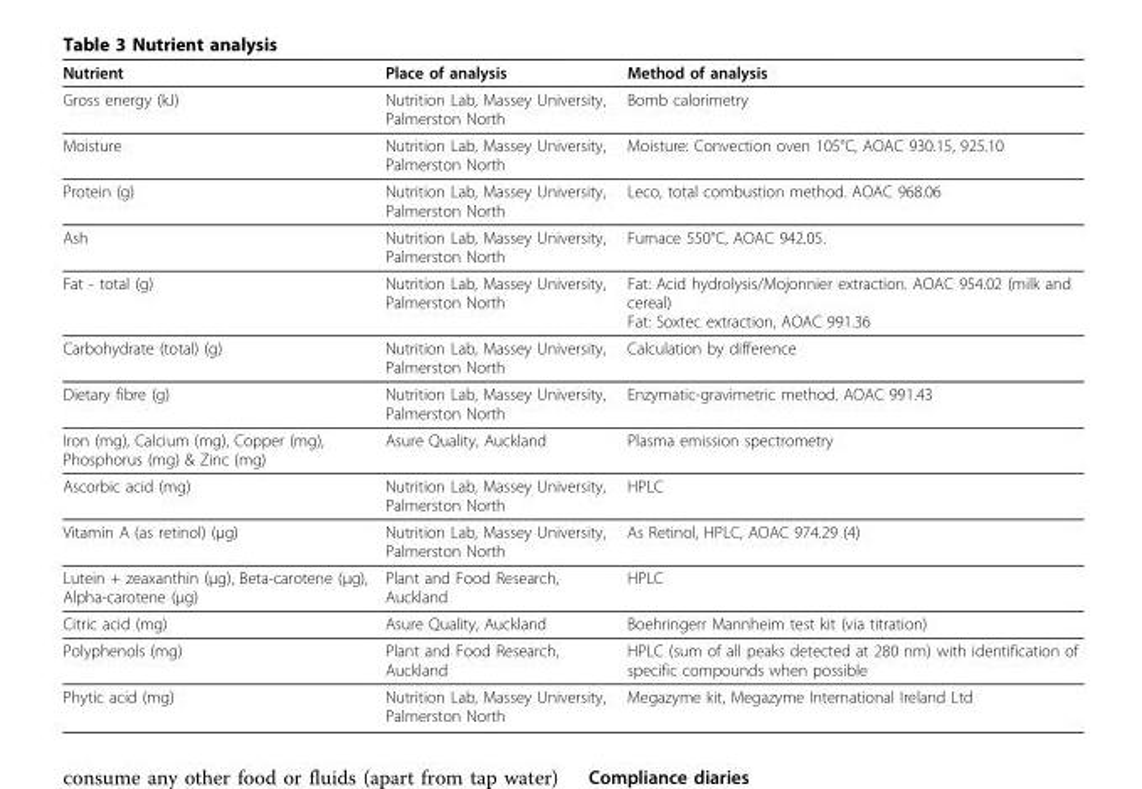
<table><thead><tr><td>Nutrient</td><td>Place of analysis</td><td>Method of analysis</td></tr></thead><tbody><tr><td>Gross energy (kJ)</td><td>Nutrition Lab, Massey University, Palmerston North</td><td>Bomb calorimetry</td></tr><tr><td>Moisture</td><td>Nutrition Lab, Massey University, Palmerston North</td><td>Moisture: Convection oven 105°C, AOAC 930.15, 925.10</td></tr><tr><td>Protein (g)</td><td>Nutrition Lab, Massey University, Palmerston North</td><td>Leco, total combustion method. AOAC 968.06</td></tr><tr><td>Ash</td><td>Nutrition Lab, Massey University, Palmerston North</td><td>Furnace 550°C, AOAC 942.05.</td></tr><tr><td>Fat - total (g)</td><td>Nutrition Lab, Massey University, Palmerston North</td><td>Fat: Acid hydrolysis/Mojonnier extraction. AOAC 954.02 (milk and cereal) Fat: Soxtec extraction, AOAC 991.36</td></tr><tr><td>Carbohydrate (total) (g)</td><td>Nutrition Lab, Massey University, Palmerston North</td><td>Calculation by difference</td></tr><tr><td>Dietary fibre (g)</td><td>Nutrition Lab, Massey University, Palmerston North</td><td>Enzymatic-gravimetric method. AOAC 991.43</td></tr><tr><td>Iron (mg), Calcium (mg), Copper (mg), Phosphorus (mg) &amp; Zinc (mg)</td><td>Asure Quality, Auckland</td><td>Plasma emission spectrometry</td></tr><tr><td>Ascorbic acid (mg)</td><td>Nutrition Lab, Massey University, Palmerston North</td><td>HPLC</td></tr><tr><td>Vitamin A (as retinol) (μg)</td><td>Nutrition Lab, Massey University, Palmerston North</td><td>As Retinol, HPLC, AOAC 974.29 (4)</td></tr><tr><td>Lutein + zeaxanthin (μg), Beta-carotene (μg), Alpha-carotene (μg)</td><td>Plant and Food Research, Auckland</td><td>HPLC</td></tr><tr><td>Citric acid (mg)</td><td>Asure Quality, Auckland</td><td>Boehringerr Mannheim test kit (via titration)</td></tr><tr><td>Polyphenols (mg)</td><td>Plant and Food Research, Auckland</td><td>HPLC (sum of all peaks detected at 280 nm) with identification of specific compounds when possible</td></tr><tr><td>Phytic acid (mg)</td><td>Nutrition Lab, Massey University, Palmerston North</td><td>Megazyme kit, Megazyme International Ireland Ltd</td></tr></tbody></table>